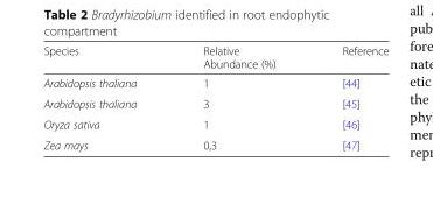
<table><thead><tr><td>Species</td><td>Relative Abundance (%)</td><td>Reference</td></tr></thead><tbody><tr><td>Arabidopsis thaliana</td><td>1</td><td>[44]</td></tr><tr><td>Arabidopsis thaliana</td><td>3</td><td>[45]</td></tr><tr><td>Oryza sativa</td><td>1</td><td>[46]</td></tr><tr><td>Zea mays</td><td>0,3</td><td>[47]</td></tr></tbody></table>